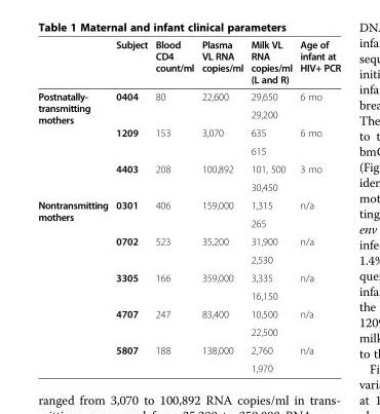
<table><thead><tr><td></td><td>Subject</td><td>Blood CD4 count/ml</td><td>Plasma VL RNA copies/ml</td><td>Milk VL RNA copies/ml (L and R)</td><td>Age of infant at HIV+ PCR</td></tr></thead><tbody><tr><td rowspan="6">Postnatally- transmitting mothers</td><td>0404</td><td>80</td><td>22,600</td><td>29,650</td><td>6 mo</td></tr><tr><td></td><td></td><td></td><td>29,200</td><td></td></tr><tr><td>1209</td><td>153</td><td>3,070</td><td>635</td><td>6 mo</td></tr><tr><td></td><td></td><td></td><td>615</td><td></td></tr><tr><td>4403</td><td>208</td><td>100,892</td><td>101, 500</td><td>3 mo</td></tr><tr><td></td><td></td><td></td><td>30,450</td><td></td></tr><tr><td rowspan="10">Nontransmitting mothers</td><td>0301</td><td>406</td><td>159,000</td><td>1,315</td><td>n/a</td></tr><tr><td></td><td></td><td></td><td>265</td><td></td></tr><tr><td>0702</td><td>523</td><td>35,200</td><td>31,900</td><td>n/a</td></tr><tr><td></td><td></td><td></td><td>2,530</td><td></td></tr><tr><td>3305</td><td>166</td><td>359,000</td><td>3,335</td><td>n/a</td></tr><tr><td></td><td></td><td></td><td>16,150</td><td></td></tr><tr><td>4707</td><td>247</td><td>83,400</td><td>10,500</td><td>n/a</td></tr><tr><td></td><td></td><td></td><td>22,500</td><td></td></tr><tr><td>5807</td><td>188</td><td>138,000</td><td>2,760</td><td>n/a</td></tr><tr><td></td><td></td><td></td><td>1,970</td><td></td></tr></tbody></table>